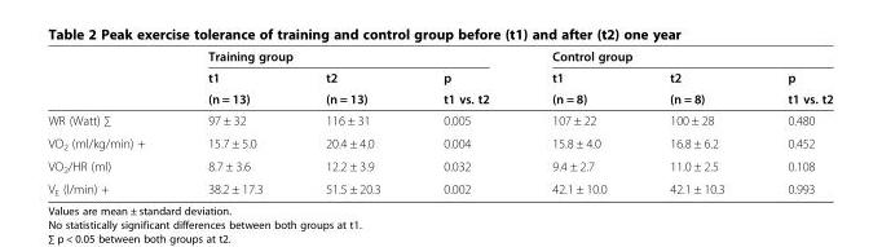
<table><thead><tr><td rowspan="3"></td><td colspan="3">Training group</td><td colspan="3">Control group</td></tr><tr><td rowspan="2">t1 (n = 13)</td><td rowspan="2">t2 (n = 13)</td><td rowspan="2">p t1 vs. t2</td><td rowspan="2">t1 (n = 8)</td><td rowspan="2">t2 (n = 8)</td><td rowspan="2">p t1 vs. t2</td></tr><tr></tr></thead><tbody><tr><td>WR (Watt) ∑</td><td>97 ± 32</td><td>116 ± 31</td><td>0.005</td><td>107 ± 22</td><td>100 ± 28</td><td>0.480</td></tr><tr><td>VO<sub>2</sub> (ml/kg/min) +</td><td>15.7 ± 5.0</td><td>20.4 ± 4.0</td><td>0.004</td><td>15.8 ± 4.0</td><td>16.8 ± 6.2</td><td>0.452</td></tr><tr><td>VO<sub>2</sub>/HR (ml)</td><td>8.7 ± 3.6</td><td>12.2 ± 3.9</td><td>0.032</td><td>9.4 ± 2.7</td><td>11.0 ± 2.5</td><td>0.108</td></tr><tr><td>V<sub>E</sub> (l/min) +</td><td>38.2 ± 17.3</td><td>51.5 ± 20.3</td><td>0.002</td><td>42.1 ± 10.0</td><td>42.1 ± 10.3</td><td>0.993</td></tr></tbody></table>